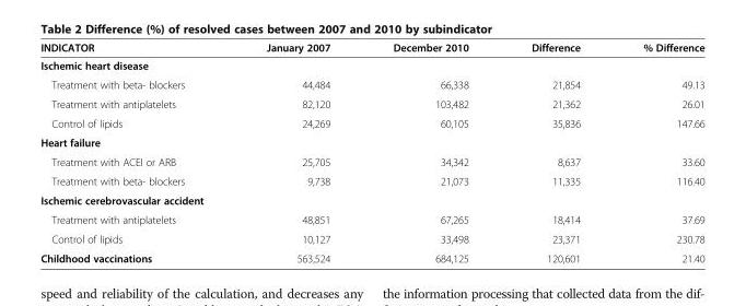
<table><thead><tr><td>INDICATOR</td><td>January 2007</td><td>December 2010</td><td>Difference</td><td>% Difference</td></tr></thead><tbody><tr><td colspan="5">Ischemic heart disease</td></tr><tr><td>Treatment with beta- blockers</td><td>44,484</td><td>66,338</td><td>21,854</td><td>49.13</td></tr><tr><td>Treatment with antiplatelets</td><td>82,120</td><td>103,482</td><td>21,362</td><td>26.01</td></tr><tr><td>Control of lipids</td><td>24,269</td><td>60,105</td><td>35,836</td><td>147.66</td></tr><tr><td colspan="5">Heart failure</td></tr><tr><td>Treatment with ACEI or ARB</td><td>25,705</td><td>34,342</td><td>8,637</td><td>33.60</td></tr><tr><td>Treatment with beta- blockers</td><td>9,738</td><td>21,073</td><td>11,335</td><td>116.40</td></tr><tr><td colspan="5">Ischemic cerebrovascular accident</td></tr><tr><td>Treatment with antiplatelets</td><td>48,851</td><td>67,265</td><td>18,414</td><td>37.69</td></tr><tr><td>Control of lipids</td><td>10,127</td><td>33,498</td><td>23,371</td><td>230.78</td></tr><tr><td>Childhood vaccinations</td><td>563,524</td><td>684,125</td><td>120,601</td><td>21.40</td></tr></tbody></table>